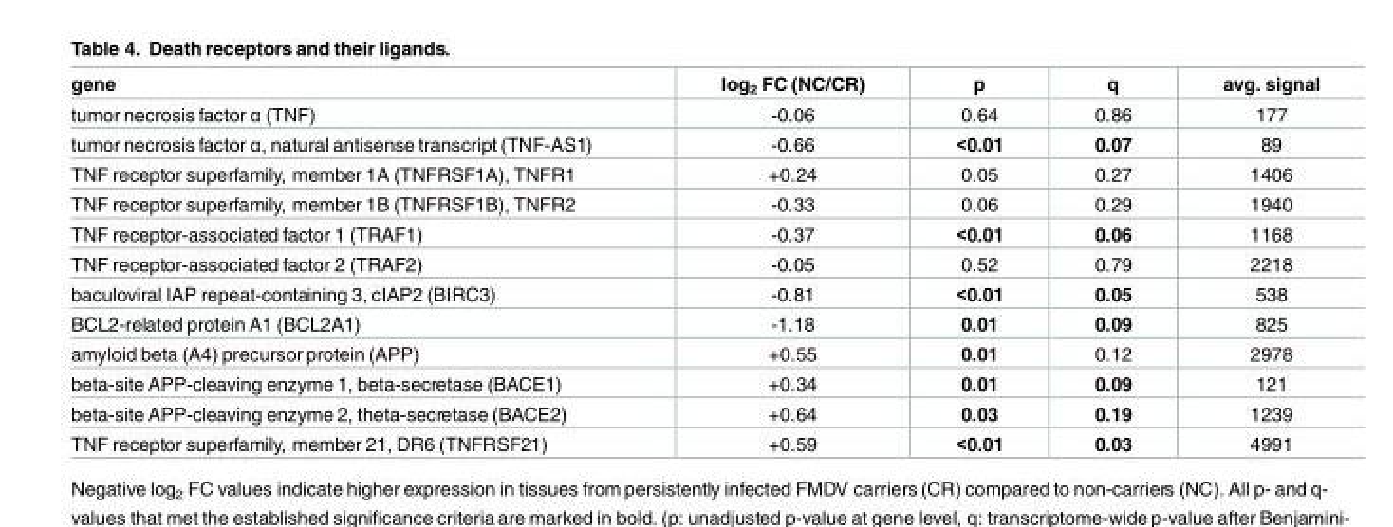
<table><thead><tr><td>gene</td><td>log<sub>2</sub> FC (NC/CR)</td><td>p</td><td>q</td><td>avg. signal</td></tr></thead><tbody><tr><td>tumor necrosis factor α (TNF)</td><td>-0.06</td><td>0.64</td><td>0.86</td><td>177</td></tr><tr><td>tumor necrosis factor α, natural antisense transcript (TNF-AS1)</td><td>-0.66</td><td>&lt;0.01</td><td>0.07</td><td>89</td></tr><tr><td>TNF receptor superfamily, member 1A (TNFRSF1A), TNFR1</td><td>+0.24</td><td>0.05</td><td>0.27</td><td>1406</td></tr><tr><td>TNF receptor superfamily, member 1B (TNFRSF1B), TNFR2</td><td>-0.33</td><td>0.06</td><td>0.29</td><td>1940</td></tr><tr><td>TNF receptor-associated factor 1 (TRAF1)</td><td>-0.37</td><td>&lt;0.01</td><td>0.06</td><td>1168</td></tr><tr><td>TNF receptor-associated factor 2 (TRAF2)</td><td>-0.05</td><td>0.52</td><td>0.79</td><td>2218</td></tr><tr><td>baculoviral IAP repeat-containing 3, cIAP2 (BIRC3)</td><td>-0.81</td><td>&lt;0.01</td><td>0.05</td><td>538</td></tr><tr><td>BCL2-related protein A1 (BCL2A1)</td><td>-1.18</td><td>0.01</td><td>0.09</td><td>825</td></tr><tr><td>amyloid beta (A4) precursor protein (APP)</td><td>+0.55</td><td>0.01</td><td>0.12</td><td>2978</td></tr><tr><td>beta-site APP-cleaving enzyme 1, beta-secretase (BACE1)</td><td>+0.34</td><td>0.01</td><td>0.09</td><td>121</td></tr><tr><td>beta-site APP-cleaving enzyme 2, theta-secretase (BACE2)</td><td>+0.64</td><td>0.03</td><td>0.19</td><td>1239</td></tr><tr><td>TNF receptor superfamily, member 21, DR6 (TNFRSF21)</td><td>+0.59</td><td>&lt;0.01</td><td>0.03</td><td>4991</td></tr></tbody></table>